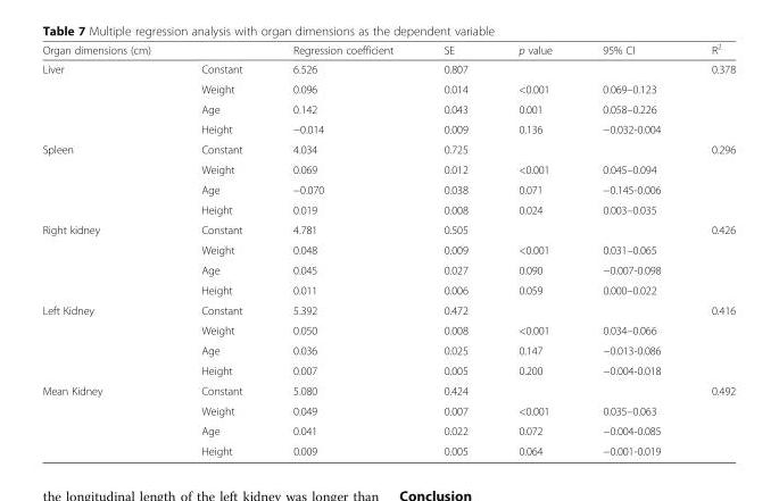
<table><thead><tr><td>Organ dimensions (cm)</td><td></td><td>Regression coefficient</td><td>SE</td><td>p value</td><td>95% CI</td><td>R<sup>2</sup></td></tr></thead><tbody><tr><td rowspan="4">Liver</td><td>Constant</td><td>6.526</td><td>0.807</td><td></td><td></td><td rowspan="4">0.378</td></tr><tr><td>Weight</td><td>0.096</td><td>0.014</td><td>&lt;0.001</td><td>0.069–0.123</td></tr><tr><td>Age</td><td>0.142</td><td>0.043</td><td>0.001</td><td>0.058–0.226</td></tr><tr><td>Height</td><td>−0.014</td><td>0.009</td><td>0.136</td><td>−0.032-0.004</td></tr><tr><td rowspan="4">Spleen</td><td>Constant</td><td>4.034</td><td>0.725</td><td></td><td></td><td rowspan="4">0.296</td></tr><tr><td>Weight</td><td>0.069</td><td>0.012</td><td>&lt;0.001</td><td>0.045–0.094</td></tr><tr><td>Age</td><td>−0.070</td><td>0.038</td><td>0.071</td><td>−0.145-0.006</td></tr><tr><td>Height</td><td>0.019</td><td>0.008</td><td>0.024</td><td>0.003–0.035</td></tr><tr><td rowspan="4">Right kidney</td><td>Constant</td><td>4.781</td><td>0.505</td><td></td><td></td><td>0.426</td></tr><tr><td>Weight</td><td>0.048</td><td>0.009</td><td>&lt;0.001</td><td>0.031–0.065</td><td rowspan="3"></td></tr><tr><td>Age</td><td>0.045</td><td>0.027</td><td>0.090</td><td>−0.007-0.098</td></tr><tr><td>Height</td><td>0.011</td><td>0.006</td><td>0.059</td><td>0.000–0.022</td></tr><tr><td rowspan="4">Left Kidney</td><td>Constant</td><td>5.392</td><td>0.472</td><td></td><td></td><td rowspan="4">0.416</td></tr><tr><td>Weight</td><td>0.050</td><td>0.008</td><td>&lt;0.001</td><td>0.034–0.066</td></tr><tr><td>Age</td><td>0.036</td><td>0.025</td><td>0.147</td><td>−0.013-0.086</td></tr><tr><td>Height</td><td>0.007</td><td>0.005</td><td>0.200</td><td>−0.004-0.018</td></tr><tr><td rowspan="4">Mean Kidney</td><td>Constant</td><td>5.080</td><td>0.424</td><td></td><td></td><td rowspan="4">0.492</td></tr><tr><td>Weight</td><td>0.049</td><td>0.007</td><td>&lt;0.001</td><td>0.035–0.063</td></tr><tr><td>Age</td><td>0.041</td><td>0.022</td><td>0.072</td><td>−0.004-0.085</td></tr><tr><td>Height</td><td>0.009</td><td>0.005</td><td>0.064</td><td>−0.001-0.019</td></tr></tbody></table>